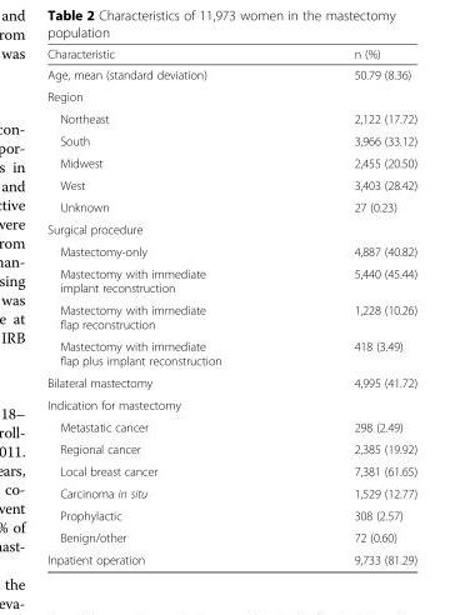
<table><thead><tr><td>Characteristic</td><td>n (%)</td></tr></thead><tbody><tr><td>Age, mean (standard deviation)</td><td>50.79 (8.36)</td></tr><tr><td colspan="2">Region</td></tr><tr><td>Northeast</td><td>2,122 (17.72)</td></tr><tr><td>South</td><td>3,966 (33.12)</td></tr><tr><td>Midwest</td><td>2,455 (20.50)</td></tr><tr><td>West</td><td>3,403 (28.42)</td></tr><tr><td>Unknown</td><td>27 (0.23)</td></tr><tr><td colspan="2">Surgical procedure</td></tr><tr><td>Mastectomy-only</td><td>4,887 (40.82)</td></tr><tr><td>Mastectomy with immediate implant reconstruction</td><td>5,440 (45.44)</td></tr><tr><td>Mastectomy with immediate flap reconstruction</td><td>1,228 (10.26)</td></tr><tr><td>Mastectomy with immediate flap plus implant reconstruction</td><td>418 (3.49)</td></tr><tr><td>Bilateral mastectomy</td><td>4,995 (41.72)</td></tr><tr><td colspan="2">Indication for mastectomy</td></tr><tr><td>Metastatic cancer</td><td>298 (2.49)</td></tr><tr><td>Regional cancer</td><td>2,385 (19.92)</td></tr><tr><td>Local breast cancer</td><td>7,381 (61.65)</td></tr><tr><td>Carcinoma in situ</td><td>1,529 (12.77)</td></tr><tr><td>Prophylactic</td><td>308 (2.57)</td></tr><tr><td>Benign/other</td><td>72 (0.60)</td></tr><tr><td>Inpatient operation</td><td>9,733 (81.29)</td></tr></tbody></table>